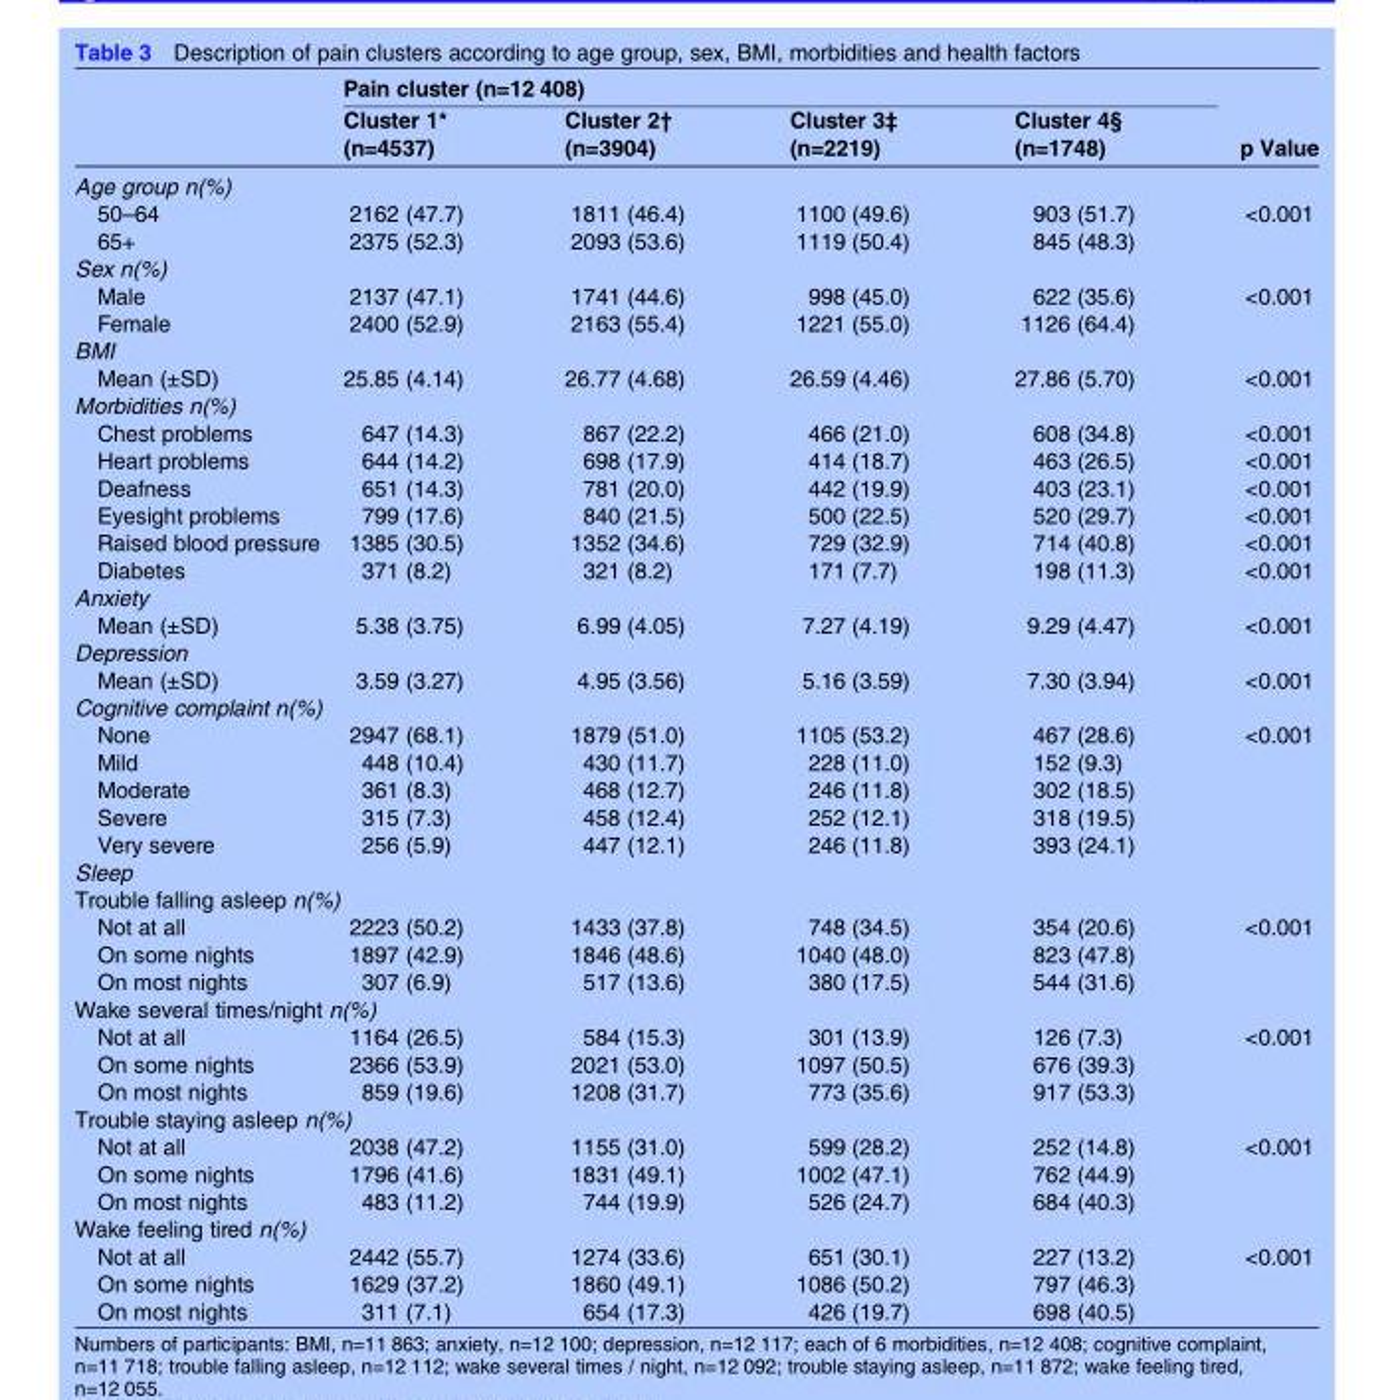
<table><thead><tr><td rowspan="2"></td><td colspan="4">Pain cluster (n=12 408)</td><td rowspan="2">p Value</td></tr><tr><td>Cluster 1* (n=4537)</td><td>Cluster 2† (n=3904)</td><td>Cluster 3‡ (n=2219)</td><td>Cluster 4§ (n=1748)</td></tr></thead><tbody><tr><td colspan="6">Age group n(%)</td></tr><tr><td>50–64</td><td>2162 (47.7)</td><td>1811 (46.4)</td><td>1100 (49.6)</td><td>903 (51.7)</td><td>&lt;0.001</td></tr><tr><td>65+</td><td>2375 (52.3)</td><td>2093 (53.6)</td><td>1119 (50.4)</td><td>845 (48.3)</td><td></td></tr><tr><td colspan="6">Sex n(%)</td></tr><tr><td>Male</td><td>2137 (47.1)</td><td>1741 (44.6)</td><td>998 (45.0)</td><td>622 (35.6)</td><td>&lt;0.001</td></tr><tr><td>Female</td><td>2400 (52.9)</td><td>2163 (55.4)</td><td>1221 (55.0)</td><td>1126 (64.4)</td><td></td></tr><tr><td colspan="6">BMI</td></tr><tr><td>Mean (±SD)</td><td>25.85 (4.14)</td><td>26.77 (4.68)</td><td>26.59 (4.46)</td><td>27.86 (5.70)</td><td>&lt;0.001</td></tr><tr><td colspan="6">Morbidities n(%)</td></tr><tr><td>Chest problems</td><td>647 (14.3)</td><td>867 (22.2)</td><td>466 (21.0)</td><td>608 (34.8)</td><td>&lt;0.001</td></tr><tr><td>Heart problems</td><td>644 (14.2)</td><td>698 (17.9)</td><td>414 (18.7)</td><td>463 (26.5)</td><td>&lt;0.001</td></tr><tr><td>Deafness</td><td>651 (14.3)</td><td>781 (20.0)</td><td>442 (19.9)</td><td>403 (23.1)</td><td>&lt;0.001</td></tr><tr><td>Eyesight problems</td><td>799 (17.6)</td><td>840 (21.5)</td><td>500 (22.5)</td><td>520 (29.7)</td><td>&lt;0.001</td></tr><tr><td>Raised blood pressure</td><td>1385 (30.5)</td><td>1352 (34.6)</td><td>729 (32.9)</td><td>714 (40.8)</td><td>&lt;0.001</td></tr><tr><td>Diabetes</td><td>371 (8.2)</td><td>321 (8.2)</td><td>171 (7.7)</td><td>198 (11.3)</td><td>&lt;0.001</td></tr><tr><td colspan="6">Anxiety</td></tr><tr><td>Mean (±SD)</td><td>5.38 (3.75)</td><td>6.99 (4.05)</td><td>7.27 (4.19)</td><td>9.29 (4.47)</td><td>&lt;0.001</td></tr><tr><td colspan="6">Depression</td></tr><tr><td>Mean (±SD)</td><td>3.59 (3.27)</td><td>4.95 (3.56)</td><td>5.16 (3.59)</td><td>7.30 (3.94)</td><td>&lt;0.001</td></tr><tr><td colspan="6">Cognitive complaint n(%)</td></tr><tr><td>None</td><td>2947 (68.1)</td><td>1879 (51.0)</td><td>1105 (53.2)</td><td>467 (28.6)</td><td>&lt;0.001</td></tr><tr><td>Mild</td><td>448 (10.4)</td><td>430 (11.7)</td><td>228 (11.0)</td><td>152 (9.3)</td><td></td></tr><tr><td>Moderate</td><td>361 (8.3)</td><td>468 (12.7)</td><td>246 (11.8)</td><td>302 (18.5)</td><td></td></tr><tr><td>Severe</td><td>315 (7.3)</td><td>458 (12.4)</td><td>252 (12.1)</td><td>318 (19.5)</td><td></td></tr><tr><td>Very severe</td><td>256 (5.9)</td><td>447 (12.1)</td><td>246 (11.8)</td><td>393 (24.1)</td><td></td></tr><tr><td colspan="6">Sleep</td></tr><tr><td colspan="6">Trouble falling asleep n(%)</td></tr><tr><td>Not at all</td><td>2223 (50.2)</td><td>1433 (37.8)</td><td>748 (34.5)</td><td>354 (20.6)</td><td>&lt;0.001</td></tr><tr><td>On some nights</td><td>1897 (42.9)</td><td>1846 (48.6)</td><td>1040 (48.0)</td><td>823 (47.8)</td><td></td></tr><tr><td>On most nights</td><td>307 (6.9)</td><td>517 (13.6)</td><td>380 (17.5)</td><td>544 (31.6)</td><td></td></tr><tr><td colspan="6">Wake several times/night n(%)</td></tr><tr><td>Not at all</td><td>1164 (26.5)</td><td>584 (15.3)</td><td>301 (13.9)</td><td>126 (7.3)</td><td>&lt;0.001</td></tr><tr><td>On some nights</td><td>2366 (53.9)</td><td>2021 (53.0)</td><td>1097 (50.5)</td><td>676 (39.3)</td><td></td></tr><tr><td>On most nights</td><td>859 (19.6)</td><td>1208 (31.7)</td><td>773 (35.6)</td><td>917 (53.3)</td><td></td></tr><tr><td colspan="6">Trouble staying asleep n(%)</td></tr><tr><td>Not at all</td><td>2038 (47.2)</td><td>1155 (31.0)</td><td>599 (28.2)</td><td>252 (14.8)</td><td>&lt;0.001</td></tr><tr><td>On some nights</td><td>1796 (41.6)</td><td>1831 (49.1)</td><td>1002 (47.1)</td><td>762 (44.9)</td><td></td></tr><tr><td>On most nights</td><td>483 (11.2)</td><td>744 (19.9)</td><td>526 (24.7)</td><td>684 (40.3)</td><td></td></tr><tr><td colspan="6">Wake feeling tired n(%)</td></tr><tr><td>Not at all</td><td>2442 (55.7)</td><td>1274 (33.6)</td><td>651 (30.1)</td><td>227 (13.2)</td><td>&lt;0.001</td></tr><tr><td>On some nights</td><td>1629 (37.2)</td><td>1860 (49.1)</td><td>1086 (50.2)</td><td>797 (46.3)</td><td></td></tr><tr><td>On most nights</td><td>311 (7.1)</td><td>654 (17.3)</td><td>426 (19.7)</td><td>698 (40.5)</td><td></td></tr></tbody></table>